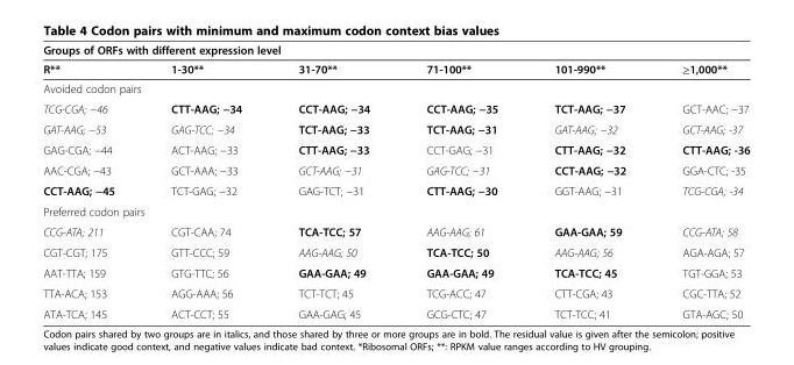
<table><thead><tr><td colspan="6">Groups of ORFs with different expression level</td></tr><tr><td>R**</td><td>1-30**</td><td>31-70**</td><td>71-100**</td><td>101-990**</td><td>≥1,000**</td></tr></thead><tbody><tr><td colspan="6">Avoided codon pairs</td></tr><tr><td>TCG-CGA; −46</td><td>CTT-AAG; −34</td><td>CCT-AAG; −34</td><td>CCT-AAG; −35</td><td>TCT-AAG; −37</td><td>GCT-AAC; −37</td></tr><tr><td>GAT-AAG; −53</td><td>GAG-TCC; −34</td><td>TCT-AAG; −33</td><td>TCT-AAG; −31</td><td>GAT-AAG; −32</td><td>GCT-AAG; -37</td></tr><tr><td>GAG-CGA; −44</td><td>ACT-AAG; −33</td><td>CTT-AAG; −33</td><td>CCT-GAG; −31</td><td>CTT-AAG; −32</td><td>CTT-AAG; -36</td></tr><tr><td>AAC-CGA; −43</td><td>GCT-AAA; −33</td><td>GCT-AAG; −31</td><td>GAG-TCC; −31</td><td>CCT-AAG; −32</td><td>GGA-CTC; -35</td></tr><tr><td>CCT-AAG; −45</td><td>TCT-GAG; −32</td><td>GAG-TCT; −31</td><td>CTT-AAG; −30</td><td>GGT-AAG; −31</td><td>TCG-CGA; -34</td></tr><tr><td colspan="6">Preferred codon pairs</td></tr><tr><td>CCG-ATA; 211</td><td>CGT-CAA; 74</td><td>TCA-TCC; 57</td><td>AAG-AAG; 61</td><td>GAA-GAA; 59</td><td>CCG-ATA; 58</td></tr><tr><td>CGT-CGT; 175</td><td>GTT-CCC; 59</td><td>AAG-AAG; 50</td><td>TCA-TCC; 50</td><td>AAG-AAG; 56</td><td>AGA-AGA; 57</td></tr><tr><td>AAT-TTA; 159</td><td>GTG-TTC; 56</td><td>GAA-GAA; 49</td><td>GAA-GAA; 49</td><td>TCA-TCC; 45</td><td>TGT-GGA; 53</td></tr><tr><td>TTA-ACA; 153</td><td>AGG-AAA; 56</td><td>TCT-TCT; 45</td><td>TCG-ACC; 47</td><td>CTT-CGA; 43</td><td>CGC-TTA; 52</td></tr><tr><td>ATA-TCA; 145</td><td>ACT-CCT; 55</td><td>GAA-GAG; 45</td><td>GCG-CTC; 47</td><td>TCT-TCC; 41</td><td>GTA-AGC; 50</td></tr></tbody></table>